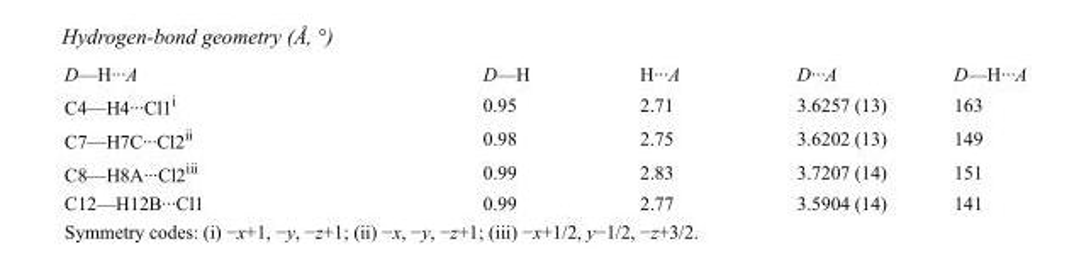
<table><tbody><tr><td>D—H···A</td><td>D—H</td><td>H···A</td><td>D···A</td><td>D—H···A</td></tr><tr><td>C4—H4···Cl1<sup>i</sup></td><td>0.95</td><td>2.71</td><td>3.6257 (13)</td><td>163</td></tr><tr><td>C7—H7C···Cl2<sup>ii</sup></td><td>0.98</td><td>2.75</td><td>3.6202 (13)</td><td>149</td></tr><tr><td>C8—H8A···Cl2<sup>iii</sup></td><td>0.99</td><td>2.83</td><td>3.7207 (14)</td><td>151</td></tr><tr><td>C12—H12B···Cl1</td><td>0.99</td><td>2.77</td><td>3.5904 (14)</td><td>141</td></tr></tbody></table>